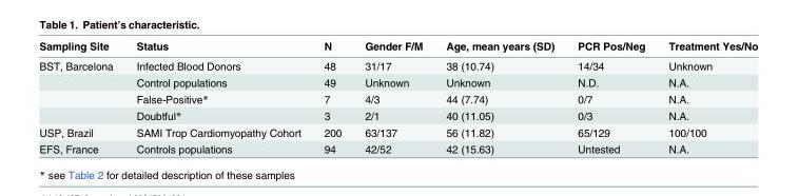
<table><thead><tr><td>Sampling Site</td><td>Status</td><td>N</td><td>Gender F/M</td><td>Age, mean years (SD)</td><td>PCR Pos/Neg</td><td>Treatment Yes/No</td></tr></thead><tbody><tr><td rowspan="4">BST, Barcelona</td><td>Infected Blood Donors</td><td>48</td><td>31/17</td><td>38 (10.74)</td><td>14/34</td><td>Unknown</td></tr><tr><td>Control populations</td><td>49</td><td>Unknown</td><td>Unknown</td><td>N.D.</td><td>N.A.</td></tr><tr><td>False-Positive*</td><td>7</td><td>4/3</td><td>44 (7.74)</td><td>0/7</td><td>N.A.</td></tr><tr><td>Doubtful*</td><td>3</td><td>2/1</td><td>40 (11.05)</td><td>0/3</td><td>N.A.</td></tr><tr><td>USP, Brazil</td><td>SAMI Trop Cardiomyopathy Cohort</td><td>200</td><td>63/137</td><td>56 (11.82)</td><td>65/129</td><td>100/100</td></tr><tr><td>EFS, France</td><td>Controls populations</td><td>94</td><td>42/52</td><td>42 (15.63)</td><td>Untested</td><td>N.A.</td></tr></tbody></table>